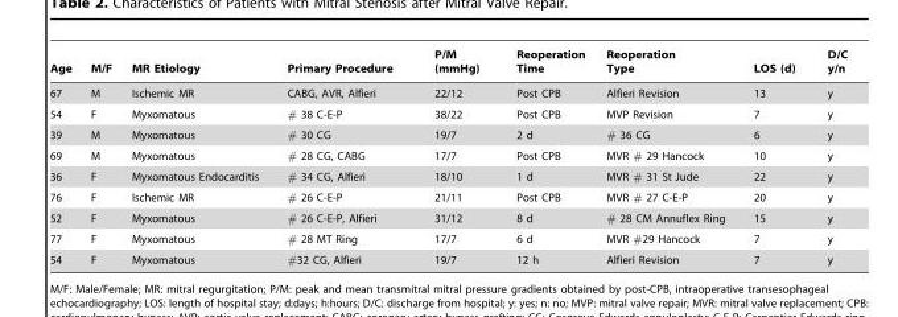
<table><thead><tr><td>Age</td><td>M/F</td><td>MR Etiology</td><td>Primary Procedure</td><td>P/M (mmHg)</td><td>Reoperation Time</td><td>Reoperation Type</td><td>LOS (d)</td><td>D/C y/n</td></tr></thead><tbody><tr><td>67</td><td>M</td><td>Ischemic MR</td><td>CABG, AVR, Alfieri</td><td>22/12</td><td>Post CPB</td><td>Alfieri Revision</td><td>13</td><td>y</td></tr><tr><td>54</td><td>F</td><td>Myxomatous</td><td># 38 C-E-P</td><td>38/22</td><td>Post CPB</td><td>MVP Revision</td><td>7</td><td>y</td></tr><tr><td>39</td><td>M</td><td>Myxomatous</td><td># 30 CG</td><td>19/7</td><td>2 d</td><td># 36 CG</td><td>6</td><td>y</td></tr><tr><td>69</td><td>M</td><td>Myxomatous</td><td># 28 CG, CABG</td><td>17/7</td><td>Post CPB</td><td>MVR # 29 Hancock</td><td>10</td><td>y</td></tr><tr><td>36</td><td>F</td><td>Myxomatous Endocarditis</td><td># 34 CG, Alfieri</td><td>18/10</td><td>1 d</td><td>MVR # 31 St Jude</td><td>22</td><td>y</td></tr><tr><td>76</td><td>F</td><td>Ischemic MR</td><td># 26 C-E-P</td><td>21/11</td><td>Post CPB</td><td>MVR # 27 C-E-P</td><td>20</td><td>y</td></tr><tr><td>52</td><td>F</td><td>Myxomatous</td><td># 26 C-E-P, Alfieri</td><td>31/12</td><td>8 d</td><td># 28 CM Annuflex Ring</td><td>15</td><td>y</td></tr><tr><td>77</td><td>F</td><td>Myxomatous</td><td># 28 MT Ring</td><td>17/7</td><td>6 d</td><td>MVR #29 Hancock</td><td>7</td><td>y</td></tr><tr><td>54</td><td>F</td><td>Myxomatous</td><td>#32 CG, Alfieri</td><td>19/7</td><td>12 h</td><td>Alfieri Revision</td><td>7</td><td>y</td></tr></tbody></table>